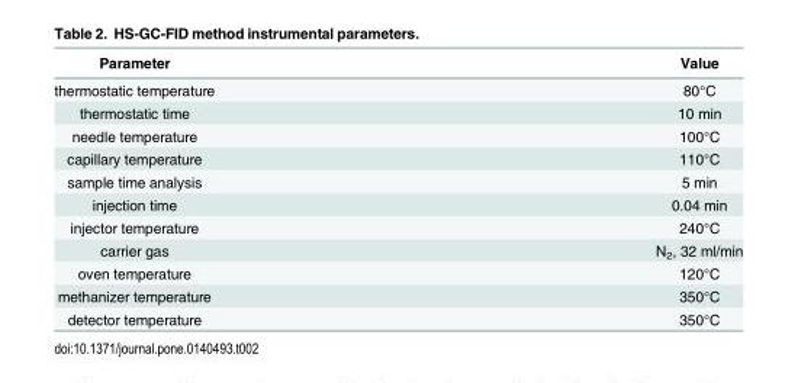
<table><thead><tr><td>Parameter</td><td>Value</td></tr></thead><tbody><tr><td>thermostatic temperature</td><td>80°C</td></tr><tr><td>thermostatic time</td><td>10 min</td></tr><tr><td>needle temperature</td><td>100°C</td></tr><tr><td>capillary temperature</td><td>110°C</td></tr><tr><td>sample time analysis</td><td>5 min</td></tr><tr><td>injection time</td><td>0.04 min</td></tr><tr><td>injector temperature</td><td>240°C</td></tr><tr><td>carrier gas</td><td>N<sub>2</sub>, 32 ml/min</td></tr><tr><td>oven temperature</td><td>120°C</td></tr><tr><td>methanizer temperature</td><td>350°C</td></tr><tr><td>detector temperature</td><td>350°C</td></tr></tbody></table>